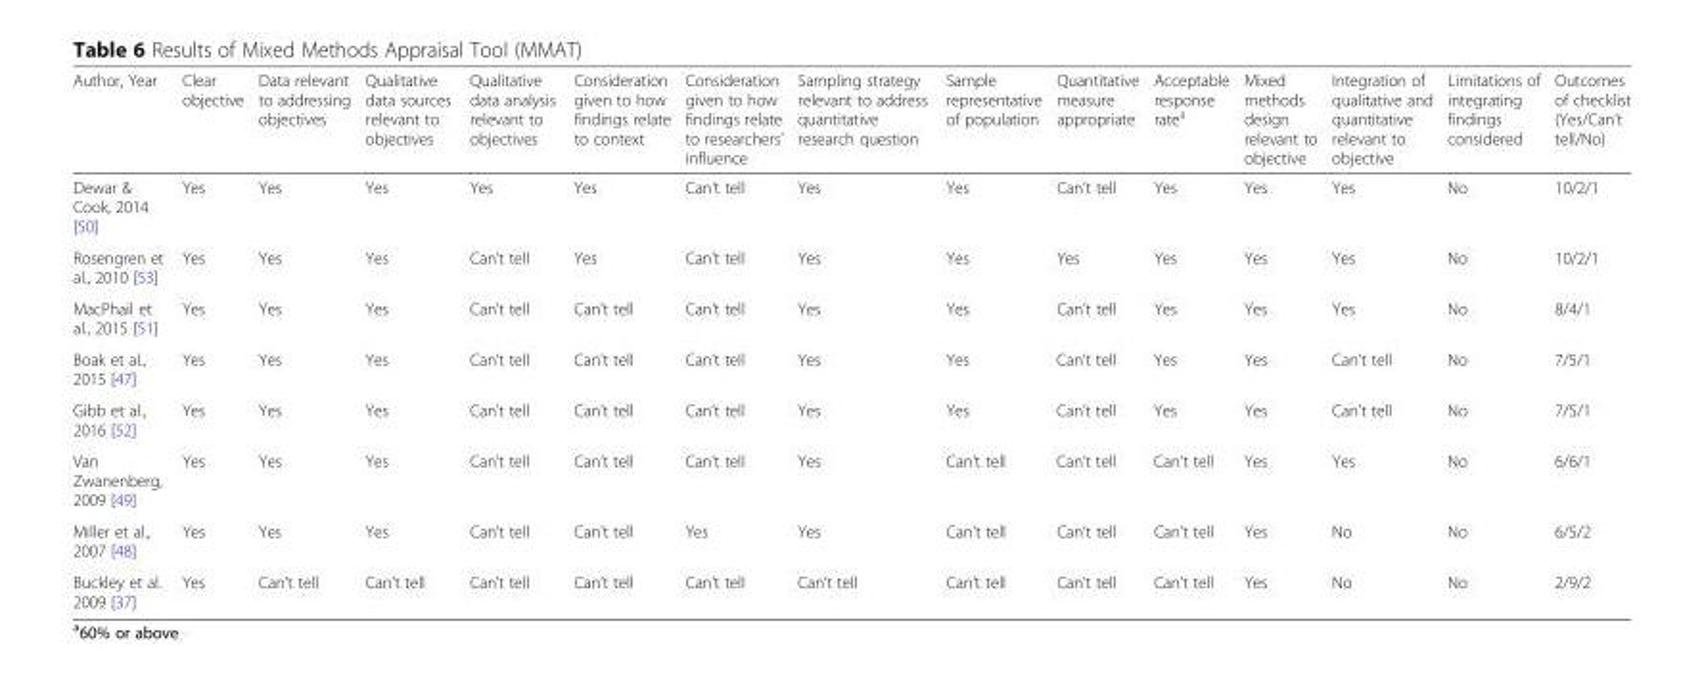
<table><thead><tr><td>Author, Year</td><td>Clear objective</td><td>Data relevant to addressing objectives</td><td>Qualitative data sources relevant to objectives</td><td>Qualitative data analysis relevant to objectives</td><td>Consideration given to how findings relate to context</td><td>Consideration given to how findings relate to researchers’ influence</td><td>Sampling strategy relevant to address quantitative research question</td><td>Sample representative of population</td><td>Quantitative measure appropriate</td><td>Acceptable response rate<sup>a</sup></td><td>Mixed methods design relevant to objective</td><td>Integration of qualitative and quantitative relevant to objective</td><td>Limitations of integrating findings considered</td><td>Outcomes of checklist (Yes/Can’t tell/No)</td></tr></thead><tbody><tr><td>Dewar &amp; Cook, 2014 [50]</td><td>Yes</td><td>Yes</td><td>Yes</td><td>Yes</td><td>Yes</td><td>Can’t tell</td><td>Yes</td><td>Yes</td><td>Can’t tell</td><td>Yes</td><td>Yes</td><td>Yes</td><td>No</td><td>10/2/1</td></tr><tr><td>Rosengren et al., 2010 [53]</td><td>Yes</td><td>Yes</td><td>Yes</td><td>Can’t tell</td><td>Yes</td><td>Can’t tell</td><td>Yes</td><td>Yes</td><td>Yes</td><td>Yes</td><td>Yes</td><td>Yes</td><td>No</td><td>10/2/1</td></tr><tr><td>MacPhail et al., 2015 [51]</td><td>Yes</td><td>Yes</td><td>Yes</td><td>Can’t tell</td><td>Can’t tell</td><td>Can’t tell</td><td>Yes</td><td>Yes</td><td>Can’t tell</td><td>Yes</td><td>Yes</td><td>Yes</td><td>No</td><td>8/4/1</td></tr><tr><td>Boak et al., 2015 [47]</td><td>Yes</td><td>Yes</td><td>Yes</td><td>Can’t tell</td><td>Can’t tell</td><td>Can’t tell</td><td>Yes</td><td>Yes</td><td>Can’t tell</td><td>Yes</td><td>Yes</td><td>Can’t tell</td><td>No</td><td>7/5/1</td></tr><tr><td>Gibb et al., 2016 [52]</td><td>Yes</td><td>Yes</td><td>Yes</td><td>Can’t tell</td><td>Can’t tell</td><td>Can’t tell</td><td>Yes</td><td>Yes</td><td>Can’t tell</td><td>Yes</td><td>Yes</td><td>Can’t tell</td><td>No</td><td>7/5/1</td></tr><tr><td>Van Zwanenberg, 2009 [49]</td><td>Yes</td><td>Yes</td><td>Yes</td><td>Can’t tell</td><td>Can’t tell</td><td>Can’t tell</td><td>Yes</td><td>Can’t tell</td><td>Can’t tell</td><td>Can’t tell</td><td>Yes</td><td>Yes</td><td>No</td><td>6/6/1</td></tr><tr><td>Miller et al., 2007 [48]</td><td>Yes</td><td>Yes</td><td>Yes</td><td>Can’t tell</td><td>Can’t tell</td><td>Yes</td><td>Yes</td><td>Can’t tell</td><td>Can’t tell</td><td>Can’t tell</td><td>Yes</td><td>No</td><td>No</td><td>6/5/2</td></tr><tr><td>Buckley et al. 2009 [37]</td><td>Yes</td><td>Can’t tell</td><td>Can’t tell</td><td>Can’t tell</td><td>Can’t tell</td><td>Can’t tell</td><td>Can’t tell</td><td>Can’t tell</td><td>Can’t tell</td><td>Can’t tell</td><td>Yes</td><td>No</td><td>No</td><td>2/9/2</td></tr></tbody></table>